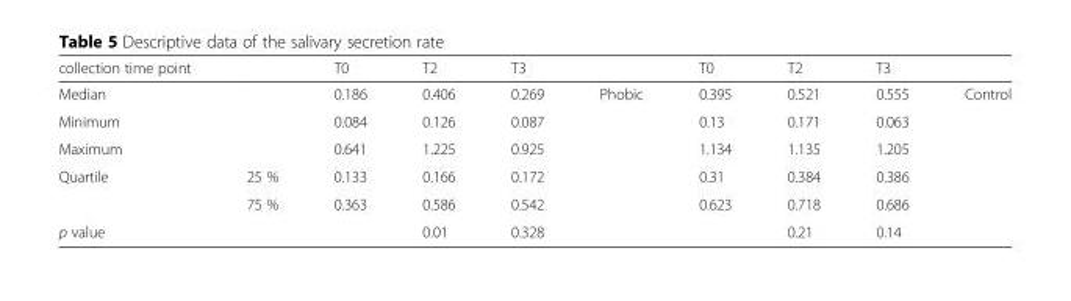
<table><thead><tr><td>collection time point</td><td></td><td>T0</td><td>T2</td><td>T3</td><td></td><td>T0</td><td>T2</td><td>T3</td><td></td></tr></thead><tbody><tr><td>Median</td><td></td><td>0.186</td><td>0.406</td><td>0.269</td><td rowspan="6">Phobic</td><td>0.395</td><td>0.521</td><td>0.555</td><td rowspan="6">Control</td></tr><tr><td>Minimum</td><td></td><td>0.084</td><td>0.126</td><td>0.087</td><td>0.13</td><td>0.171</td><td>0.063</td></tr><tr><td>Maximum</td><td></td><td>0.641</td><td>1.225</td><td>0.925</td><td>1.134</td><td>1.135</td><td>1.205</td></tr><tr><td rowspan="2">Quartile</td><td>25 %</td><td>0.133</td><td>0.166</td><td>0.172</td><td>0.31</td><td>0.384</td><td>0.386</td></tr><tr><td>75 %</td><td>0.363</td><td>0.586</td><td>0.542</td><td>0.623</td><td>0.718</td><td>0.686</td></tr><tr><td>p value</td><td></td><td></td><td>0.01</td><td>0.328</td><td></td><td>0.21</td><td>0.14</td></tr></tbody></table>